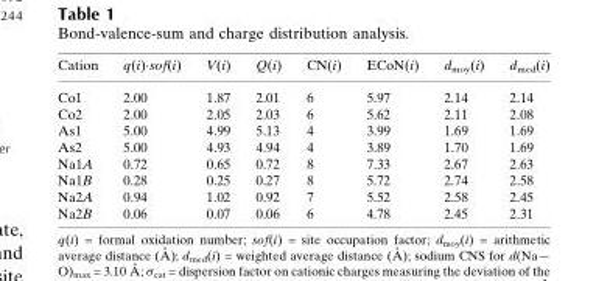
<table><thead><tr><td>Cation</td><td>q(i)·sof(i)</td><td>V(i)</td><td>Q(i)</td><td>CN(i)</td><td>ECoN(i)</td><td>d<sub>moy</sub>(i)</td><td>d<sub>med</sub>(i)</td></tr></thead><tbody><tr><td>Co1</td><td>2.00</td><td>1.87</td><td>2.01</td><td>6</td><td>5.97</td><td>2.14</td><td>2.14</td></tr><tr><td>Co2</td><td>2.00</td><td>2.05</td><td>2.03</td><td>6</td><td>5.62</td><td>2.11</td><td>2.08</td></tr><tr><td>As1</td><td>5.00</td><td>4.99</td><td>5.13</td><td>4</td><td>3.99</td><td>1.69</td><td>1.69</td></tr><tr><td>As2</td><td>5.00</td><td>4.93</td><td>4.94</td><td>4</td><td>3.89</td><td>1.70</td><td>1.69</td></tr><tr><td>Na1A</td><td>0.72</td><td>0.65</td><td>0.72</td><td>8</td><td>7.33</td><td>2.67</td><td>2.63</td></tr><tr><td>Na1B</td><td>0.28</td><td>0.25</td><td>0.27</td><td>8</td><td>5.72</td><td>2.74</td><td>2.58</td></tr><tr><td>Na2A</td><td>0.94</td><td>1.02</td><td>0.92</td><td>7</td><td>5.52</td><td>2.58</td><td>2.45</td></tr><tr><td>Na2B</td><td>0.06</td><td>0.07</td><td>0.06</td><td>6</td><td>4.78</td><td>2.45</td><td>2.31</td></tr></tbody></table>